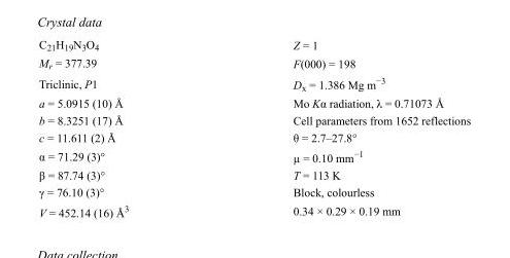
<table><tbody><tr><td>C<sub>21</sub>H<sub>19</sub>N<sub>3</sub>O<sub>4</sub></td><td>Z = 1</td></tr><tr><td>M<sub>r</sub> = 377.39</td><td>F(000) = 198</td></tr><tr><td>Triclinic, P1</td><td>D<sub>x</sub> = 1.386 Mg m<sup>−3</sup></td></tr><tr><td>a = 5.0915 (10) Å</td><td>Mo Kα radiation, λ = 0.71073 Å</td></tr><tr><td>b = 8.3251 (17) Å</td><td>Cell parameters from 1652 reflections</td></tr><tr><td>c = 11.611 (2) Å</td><td>θ = 2.7–27.8°</td></tr><tr><td>α = 71.29 (3)°</td><td>µ = 0.10 mm<sup>−1</sup></td></tr><tr><td>β = 87.74 (3)°</td><td>T = 113 K</td></tr><tr><td>γ = 76.10 (3)°</td><td>Block, colourless</td></tr><tr><td>V = 452.14 (16) Å<sup>3</sup></td><td>0.34 × 0.29 × 0.19 mm</td></tr></tbody></table>